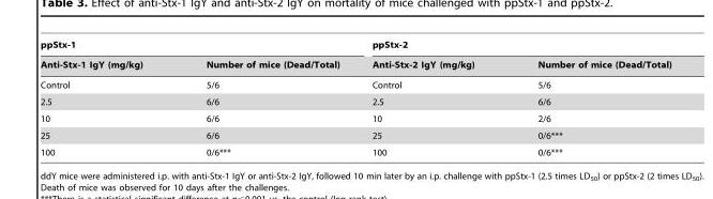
<table><thead><tr><td colspan="2">ppStx-1</td><td colspan="2">ppStx-2</td></tr><tr><td>Anti-Stx-1 IgY (mg/kg)</td><td>Number of mice (Dead/Total)</td><td>Anti-Stx-2 IgY (mg/kg)</td><td>Number of mice (Dead/Total)</td></tr></thead><tbody><tr><td>Control</td><td>5/6</td><td>Control</td><td>5/6</td></tr><tr><td>2.5</td><td>6/6</td><td>2.5</td><td>6/6</td></tr><tr><td>10</td><td>6/6</td><td>10</td><td>2/6</td></tr><tr><td>25</td><td>6/6</td><td>25</td><td>0/6***</td></tr><tr><td>100</td><td>0/6***</td><td>100</td><td>0/6***</td></tr></tbody></table>